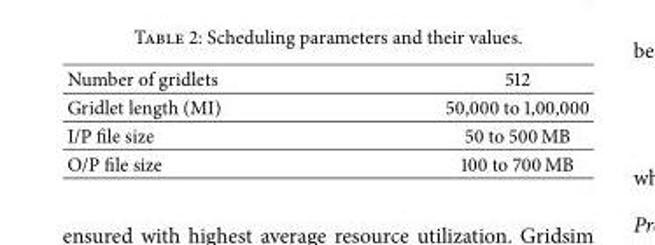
<table><tbody><tr><td>Number of gridlets</td><td>512</td></tr><tr><td>Gridlet length (MI)</td><td>50,000 to 1,00,000</td></tr><tr><td>I/P file size</td><td>50 to 500 MB</td></tr><tr><td>O/P file size</td><td>100 to 700 MB</td></tr></tbody></table>